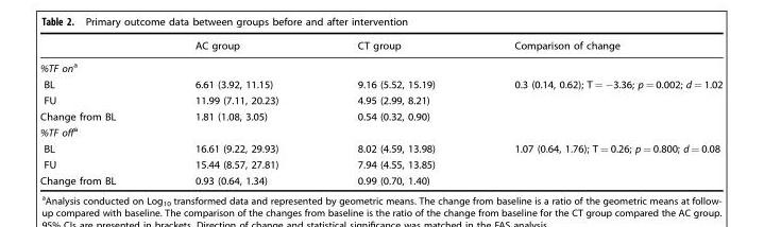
<table><thead><tr><td></td><td>AC group</td><td>CT group</td><td>Comparison of change</td></tr></thead><tbody><tr><td colspan="4">%TF on<sup>a</sup></td></tr><tr><td>BL</td><td>6.61 (3.92, 11.15)</td><td>9.16 (5.52, 15.19)</td><td>0.3 (0.14, 0.62); T = −3.36; p = 0.002; d = 1.02</td></tr><tr><td>FU</td><td>11.99 (7.11, 20.23)</td><td>4.95 (2.99, 8.21)</td><td></td></tr><tr><td>Change from BL</td><td>1.81 (1.08, 3.05)</td><td>0.54 (0.32, 0.90)</td><td></td></tr><tr><td colspan="4">%TF off<sup>a</sup></td></tr><tr><td>BL</td><td>16.61 (9.22, 29.93)</td><td>8.02 (4.59, 13.98)</td><td>1.07 (0.64, 1.76); T = 0.26; p = 0.800; d = 0.08</td></tr><tr><td>FU</td><td>15.44 (8.57, 27.81)</td><td>7.94 (4.55, 13.85)</td><td></td></tr><tr><td>Change from BL</td><td>0.93 (0.64, 1.34)</td><td>0.99 (0.70, 1.40)</td><td></td></tr></tbody></table>